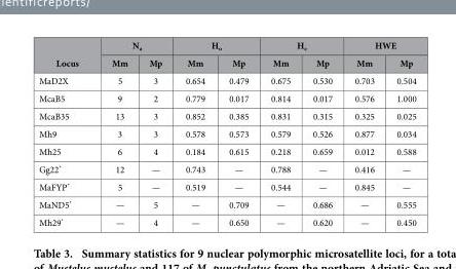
<table><thead><tr><td rowspan="2">Locus</td><td colspan="2">N<sub>a</sub></td><td colspan="2">H<sub>o</sub></td><td colspan="2">H<sub>e</sub></td><td colspan="2">HWE</td></tr><tr><td>Mm</td><td>Mp</td><td>Mm</td><td>Mp</td><td>Mm</td><td>Mp</td><td>Mm</td><td>Mp</td></tr></thead><tbody><tr><td>MaD2X</td><td>5</td><td>3</td><td>0.654</td><td>0.479</td><td>0.675</td><td>0.530</td><td>0.703</td><td>0.504</td></tr><tr><td>McaB5</td><td>9</td><td>2</td><td>0.779</td><td>0.017</td><td>0.814</td><td>0.017</td><td>0.576</td><td>1.000</td></tr><tr><td>McaB35</td><td>13</td><td>3</td><td>0.852</td><td>0.385</td><td>0.831</td><td>0.315</td><td>0.325</td><td>0.025</td></tr><tr><td>Mh9</td><td>3</td><td>3</td><td>0.578</td><td>0.573</td><td>0.579</td><td>0.526</td><td>0.877</td><td>0.034</td></tr><tr><td>Mh25</td><td>6</td><td>4</td><td>0.184</td><td>0.615</td><td>0.218</td><td>0.659</td><td>0.012</td><td>0.588</td></tr><tr><td>Gg22*</td><td>12</td><td>—</td><td>0.743</td><td>—</td><td>0.788</td><td>—</td><td>0.416</td><td>—</td></tr><tr><td>MaFYP*</td><td>5</td><td>—</td><td>0.519</td><td>—</td><td>0.544</td><td>—</td><td>0.845</td><td>—</td></tr><tr><td>MaND5*</td><td>—</td><td>5</td><td>—</td><td>0.709</td><td>—</td><td>0.686</td><td>—</td><td>0.555</td></tr><tr><td>Mh29*</td><td>—</td><td>4</td><td>—</td><td>0.650</td><td>—</td><td>0.620</td><td>—</td><td>0.450</td></tr></tbody></table>